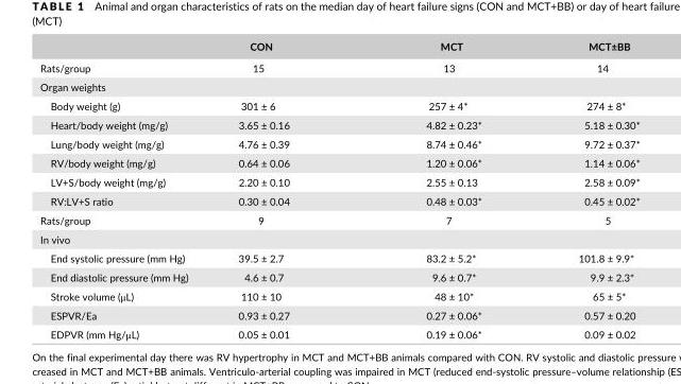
<table><thead><tr><td></td><td>CON</td><td>MCT</td><td>MCT±BB</td></tr></thead><tbody><tr><td>Rats/group</td><td>15</td><td>13</td><td>14</td></tr><tr><td colspan="4">Organ weights</td></tr><tr><td>Body weight (g)</td><td>301 ± 6</td><td>257 ± 4*</td><td>274 ± 8*</td></tr><tr><td>Heart/body weight (mg/g)</td><td>3.65 ± 0.16</td><td>4.82 ± 0.23*</td><td>5.18 ± 0.30*</td></tr><tr><td>Lung/body weight (mg/g)</td><td>4.76 ± 0.39</td><td>8.74 ± 0.46*</td><td>9.72 ± 0.37*</td></tr><tr><td>RV/body weight (mg/g)</td><td>0.64 ± 0.06</td><td>1.20 ± 0.06*</td><td>1.14 ± 0.06*</td></tr><tr><td>LV+S/body weight (mg/g)</td><td>2.20 ± 0.10</td><td>2.55 ± 0.13</td><td>2.58 ± 0.09*</td></tr><tr><td>RV:LV+S ratio</td><td>0.30 ± 0.04</td><td>0.48 ± 0.03*</td><td>0.45 ± 0.02*</td></tr><tr><td>Rats/group</td><td>9</td><td>7</td><td>5</td></tr><tr><td colspan="4">In vivo</td></tr><tr><td>End systolic pressure (mm Hg)</td><td>39.5 ± 2.7</td><td>83.2 ± 5.2*</td><td>101.8 ± 9.9*</td></tr><tr><td>End diastolic pressure (mm Hg)</td><td>4.6 ± 0.7</td><td>9.6 ± 0.7*</td><td>9.9 ± 2.3*</td></tr><tr><td>Stroke volume (μL)</td><td>110 ± 10</td><td>48 ± 10*</td><td>65 ± 5*</td></tr><tr><td>ESPVR/Ea</td><td>0.93 ± 0.27</td><td>0.27 ± 0.06*</td><td>0.57 ± 0.20</td></tr><tr><td>EDPVR (mm Hg/μL)</td><td>0.05 ± 0.01</td><td>0.19 ± 0.06*</td><td>0.09 ± 0.02</td></tr></tbody></table>